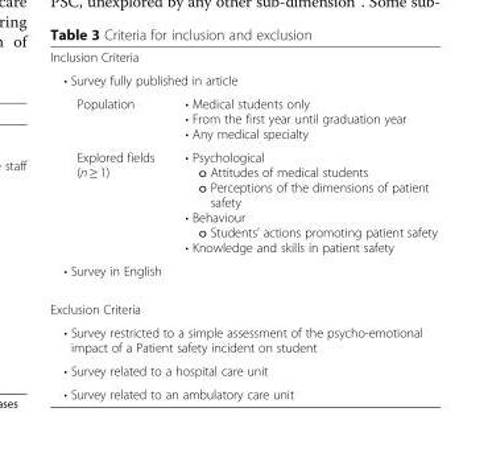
<table><tbody><tr><td colspan="2">Inclusion Criteria</td></tr><tr><td colspan="2">• Survey fully published in article</td></tr><tr><td>Population</td><td>• Medical students only • From the first year until graduation year • Any medical specialty</td></tr><tr><td>Explored fields (n ≥ 1)</td><td>• Psychological o Attitudes of medical students o Perceptions of the dimensions of patient safety • Behaviour o Students’ actions promoting patient safety • Knowledge and skills in patient safety</td></tr><tr><td colspan="2">• Survey in English</td></tr><tr><td colspan="2">Exclusion Criteria</td></tr><tr><td colspan="2">• Survey restricted to a simple assessment of the psycho-emotional impact of a Patient safety incident on student</td></tr><tr><td colspan="2">• Survey related to a hospital care unit</td></tr><tr><td colspan="2">• Survey related to an ambulatory care unit</td></tr></tbody></table>